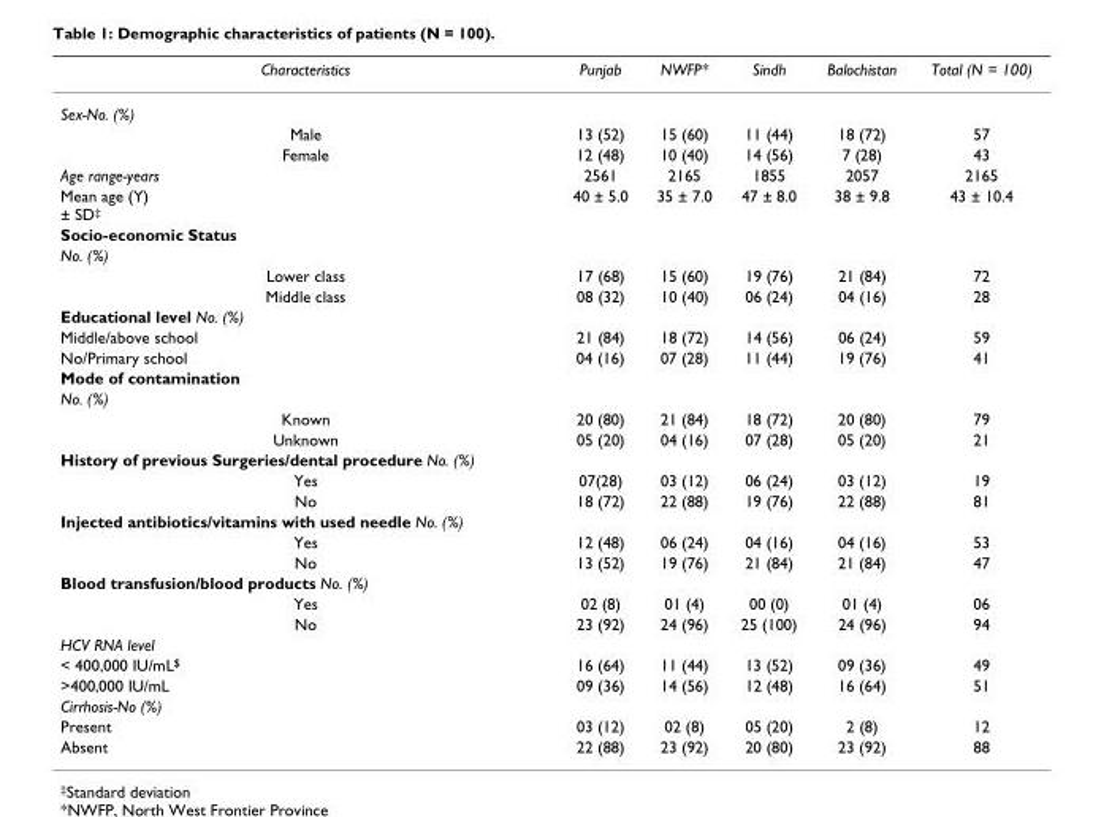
<table><thead><tr><td>Characteristics</td><td>Punjab</td><td>NWFP*</td><td>Sindh</td><td>Balochistan</td><td>Total (N = 100)</td></tr></thead><tbody><tr><td colspan="6">Sex-No. (%)</td></tr><tr><td>Male</td><td>13 (52)</td><td>15 (60)</td><td>11 (44)</td><td>18 (72)</td><td>57</td></tr><tr><td>Female</td><td>12 (48)</td><td>10 (40)</td><td>14 (56)</td><td>7 (28)</td><td>43</td></tr><tr><td>Age range-years</td><td>2561</td><td>2165</td><td>1855</td><td>2057</td><td>2165</td></tr><tr><td>Mean age (Y) ± SD<sup>‡</sup></td><td>40 ± 5.0</td><td>35 ± 7.0</td><td>47 ± 8.0</td><td>38 ± 9.8</td><td>43 ± 10.4</td></tr><tr><td colspan="6">Socio-economic Status</td></tr><tr><td colspan="6">No. (%)</td></tr><tr><td>Lower class</td><td>17 (68)</td><td>15 (60)</td><td>19 (76)</td><td>21 (84)</td><td>72</td></tr><tr><td>Middle class</td><td>08 (32)</td><td>10 (40)</td><td>06 (24)</td><td>04 (16)</td><td>28</td></tr><tr><td colspan="6">Educational level No. (%)</td></tr><tr><td>Middle/above school</td><td>21 (84)</td><td>18 (72)</td><td>14 (56)</td><td>06 (24)</td><td>59</td></tr><tr><td>No/Primary school</td><td>04 (16)</td><td>07 (28)</td><td>11 (44)</td><td>19 (76)</td><td>41</td></tr><tr><td colspan="6">Mode of contamination</td></tr><tr><td colspan="6">No. (%)</td></tr><tr><td>Known</td><td>20 (80)</td><td>21 (84)</td><td>18 (72)</td><td>20 (80)</td><td>79</td></tr><tr><td>Unknown</td><td>05 (20)</td><td>04 (16)</td><td>07 (28)</td><td>05 (20)</td><td>21</td></tr><tr><td colspan="6">History of previous Surgeries/dental procedure No. (%)</td></tr><tr><td>Yes</td><td>07(28)</td><td>03 (12)</td><td>06 (24)</td><td>03 (12)</td><td>19</td></tr><tr><td>No</td><td>18 (72)</td><td>22 (88)</td><td>19 (76)</td><td>22 (88)</td><td>81</td></tr><tr><td colspan="6">Injected antibiotics/vitamins with used needle No. (%)</td></tr><tr><td>Yes</td><td>12 (48)</td><td>06 (24)</td><td>04 (16)</td><td>04 (16)</td><td>53</td></tr><tr><td>No</td><td>13 (52)</td><td>19 (76)</td><td>21 (84)</td><td>21 (84)</td><td>47</td></tr><tr><td colspan="6">Blood transfusion/blood products No. (%)</td></tr><tr><td>Yes</td><td>02 (8)</td><td>01 (4)</td><td>00 (0)</td><td>01 (4)</td><td>06</td></tr><tr><td>No</td><td>23 (92)</td><td>24 (96)</td><td>25 (100)</td><td>24 (96)</td><td>94</td></tr><tr><td colspan="6">HCV RNA level</td></tr><tr><td>&lt; 400,000 IU/mL<sup>$</sup></td><td>16 (64)</td><td>11 (44)</td><td>13 (52)</td><td>09 (36)</td><td>49</td></tr><tr><td>&gt;400,000 IU/mL</td><td>09 (36)</td><td>14 (56)</td><td>12 (48)</td><td>16 (64)</td><td>51</td></tr><tr><td colspan="6">Cirrhosis-No (%)</td></tr><tr><td>Present</td><td>03 (12)</td><td>02 (8)</td><td>05 (20)</td><td>2 (8)</td><td>12</td></tr><tr><td>Absent</td><td>22 (88)</td><td>23 (92)</td><td>20 (80)</td><td>23 (92)</td><td>88</td></tr></tbody></table>